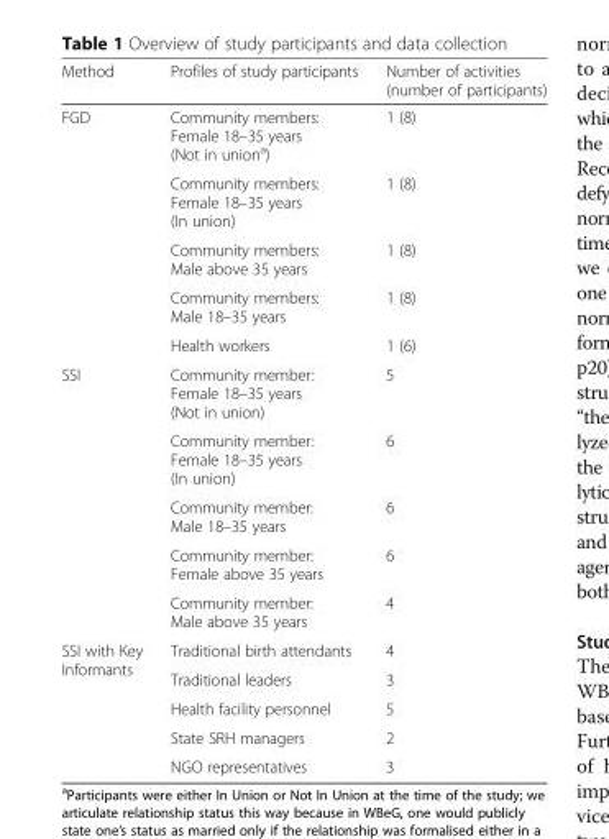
<table><thead><tr><td>Method</td><td>Profiles of study participants</td><td>Number of activities (number of participants)</td></tr></thead><tbody><tr><td rowspan="5">FGD</td><td>Community members: Female 18–35 years (Not in union<sup>a</sup>)</td><td>1 (8)</td></tr><tr><td>Community members: Female 18–35 years (In union)</td><td>1 (8)</td></tr><tr><td>Community members: Male above 35 years</td><td>1 (8)</td></tr><tr><td>Community members: Male 18–35 years</td><td>1 (8)</td></tr><tr><td>Health workers</td><td>1 (6)</td></tr><tr><td rowspan="5">SSI</td><td>Community member: Female 18–35 years (Not in union)</td><td>5</td></tr><tr><td>Community member: Female 18–35 years (In union)</td><td>6</td></tr><tr><td>Community member: Male 18–35 years</td><td>6</td></tr><tr><td>Community member: Female above 35 years</td><td>6</td></tr><tr><td>Community member: Male above 35 years</td><td>4</td></tr><tr><td rowspan="5">SSI with Key Informants</td><td>Traditional birth attendants</td><td>4</td></tr><tr><td>Traditional leaders</td><td>3</td></tr><tr><td>Health facility personnel</td><td>5</td></tr><tr><td>State SRH managers</td><td>2</td></tr><tr><td>NGO representatives</td><td>3</td></tr></tbody></table>